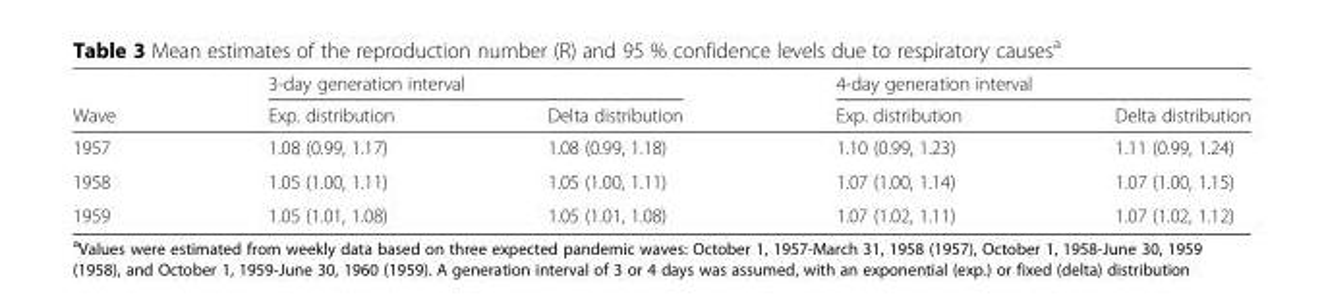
<table><thead><tr><td rowspan="2">Wave</td><td colspan="2">3-day generation interval</td><td colspan="2">4-day generation interval</td></tr><tr><td>Exp. distribution</td><td>Delta distribution</td><td>Exp. distribution</td><td>Delta distribution</td></tr></thead><tbody><tr><td>1957</td><td>1.08 (0.99, 1.17)</td><td>1.08 (0.99, 1.18)</td><td>1.10 (0.99, 1.23)</td><td>1.11 (0.99, 1.24)</td></tr><tr><td>1958</td><td>1.05 (1.00, 1.11)</td><td>1.05 (1.00, 1.11)</td><td>1.07 (1.00, 1.14)</td><td>1.07 (1.00, 1.15)</td></tr><tr><td>1959</td><td>1.05 (1.01, 1.08)</td><td>1.05 (1.01, 1.08)</td><td>1.07 (1.02, 1.11)</td><td>1.07 (1.02, 1.12)</td></tr></tbody></table>